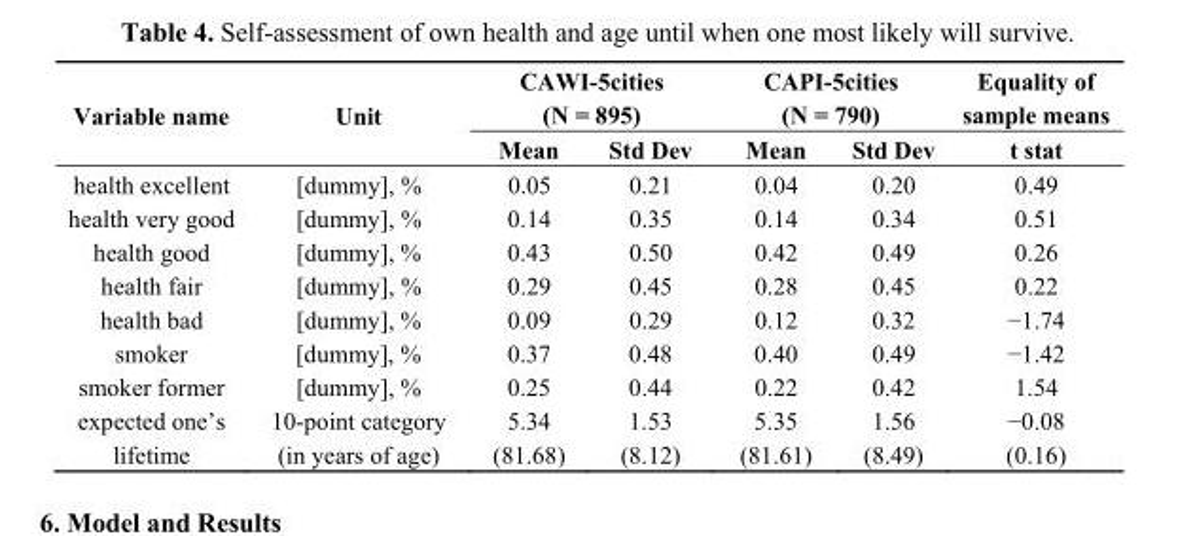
<table><thead><tr><td rowspan="2">Variable name</td><td rowspan="2">Unit</td><td colspan="2">CAWI-5cities (N = 895)</td><td colspan="2">CAPI-5cities (N = 790)</td><td rowspan="2">Equality of sample means t stat</td></tr><tr><td>Mean</td><td>Std Dev</td><td>Mean</td><td>Std Dev</td></tr></thead><tbody><tr><td>health excellent</td><td>[dummy], %</td><td>0.05</td><td>0.21</td><td>0.04</td><td>0.20</td><td>0.49</td></tr><tr><td>health very good</td><td>[dummy], %</td><td>0.14</td><td>0.35</td><td>0.14</td><td>0.34</td><td>0.51</td></tr><tr><td>health good</td><td>[dummy], %</td><td>0.43</td><td>0.50</td><td>0.42</td><td>0.49</td><td>0.26</td></tr><tr><td>health fair</td><td>[dummy], %</td><td>0.29</td><td>0.45</td><td>0.28</td><td>0.45</td><td>0.22</td></tr><tr><td>health bad</td><td>[dummy], %</td><td>0.09</td><td>0.29</td><td>0.12</td><td>0.32</td><td>−1.74</td></tr><tr><td>smoker</td><td>[dummy], %</td><td>0.37</td><td>0.48</td><td>0.40</td><td>0.49</td><td>−1.42</td></tr><tr><td>smoker former</td><td>[dummy], %</td><td>0.25</td><td>0.44</td><td>0.22</td><td>0.42</td><td>1.54</td></tr><tr><td>expected one’s lifetime</td><td>10-point category (in years of age)</td><td>5.34 (81.68)</td><td>1.53 (8.12)</td><td>5.35 (81.61)</td><td>1.56 (8.49)</td><td>−0.08 (0.16)</td></tr></tbody></table>